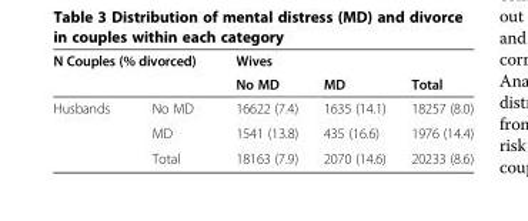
<table><thead><tr><td rowspan="2" colspan="2">N Couples (% divorced)</td><td rowspan="3">Wives No MD 16622 (7.4)</td><td rowspan="3">MD 1635 (14.1)</td><td rowspan="3">Total 18257 (8.0)</td></tr><tr></tr><tr><td>Husbands</td><td>No MD</td></tr></thead><tbody><tr><td></td><td>MD</td><td>1541 (13.8)</td><td>435 (16.6)</td><td>1976 (14.4)</td></tr><tr><td></td><td>Total</td><td>18163 (7.9)</td><td>2070 (14.6)</td><td>20233 (8.6)</td></tr></tbody></table>